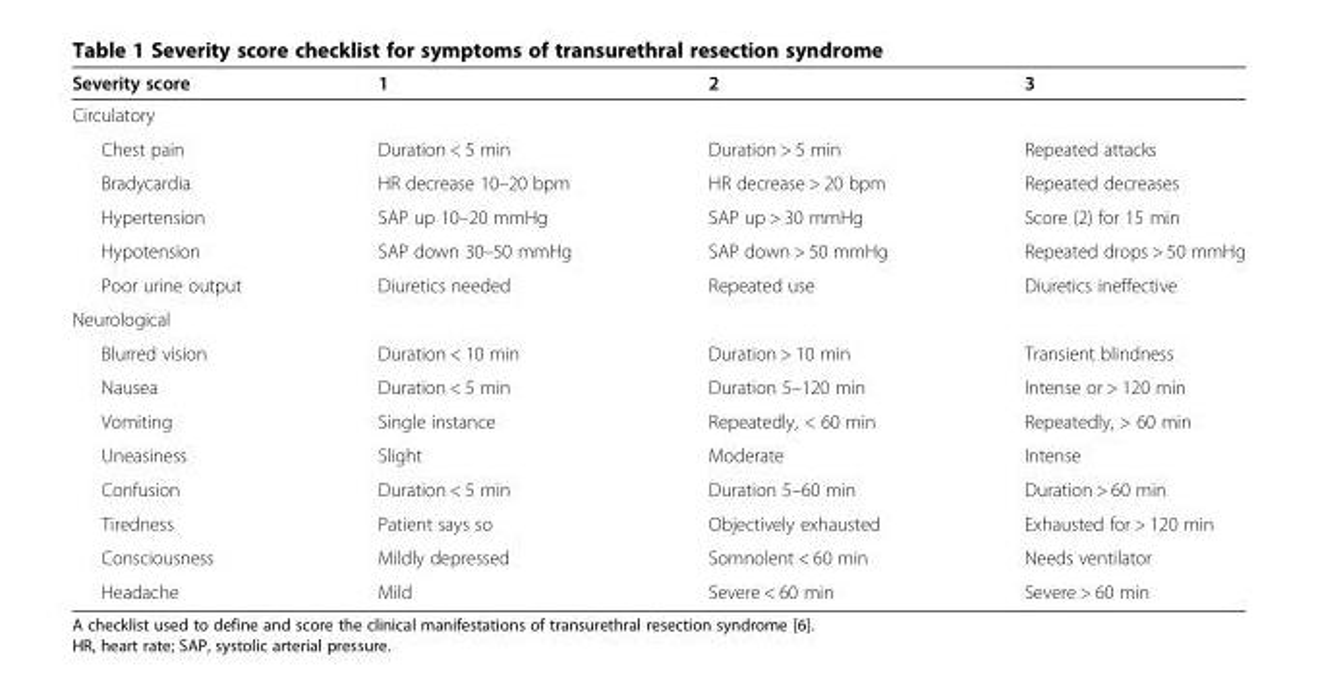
<table><thead><tr><td>Severity score</td><td>1</td><td>2</td><td>3</td></tr></thead><tbody><tr><td colspan="4">Circulatory</td></tr><tr><td>Chest pain</td><td>Duration &lt; 5 min</td><td>Duration &gt; 5 min</td><td>Repeated attacks</td></tr><tr><td>Bradycardia</td><td>HR decrease 10–20 bpm</td><td>HR decrease &gt; 20 bpm</td><td>Repeated decreases</td></tr><tr><td>Hypertension</td><td>SAP up 10–20 mmHg</td><td>SAP up &gt; 30 mmHg</td><td>Score (2) for 15 min</td></tr><tr><td>Hypotension</td><td>SAP down 30–50 mmHg</td><td>SAP down &gt; 50 mmHg</td><td>Repeated drops &gt; 50 mmHg</td></tr><tr><td>Poor urine output</td><td>Diuretics needed</td><td>Repeated use</td><td>Diuretics ineffective</td></tr><tr><td colspan="4">Neurological</td></tr><tr><td>Blurred vision</td><td>Duration &lt; 10 min</td><td>Duration &gt; 10 min</td><td>Transient blindness</td></tr><tr><td>Nausea</td><td>Duration &lt; 5 min</td><td>Duration 5–120 min</td><td>Intense or &gt; 120 min</td></tr><tr><td>Vomiting</td><td>Single instance</td><td>Repeatedly, &lt; 60 min</td><td>Repeatedly, &gt; 60 min</td></tr><tr><td>Uneasiness</td><td>Slight</td><td>Moderate</td><td>Intense</td></tr><tr><td>Confusion</td><td>Duration &lt; 5 min</td><td>Duration 5–60 min</td><td>Duration &gt; 60 min</td></tr><tr><td>Tiredness</td><td>Patient says so</td><td>Objectively exhausted</td><td>Exhausted for &gt; 120 min</td></tr><tr><td>Consciousness</td><td>Mildly depressed</td><td>Somnolent &lt; 60 min</td><td>Needs ventilator</td></tr><tr><td>Headache</td><td>Mild</td><td>Severe &lt; 60 min</td><td>Severe &gt; 60 min</td></tr></tbody></table>